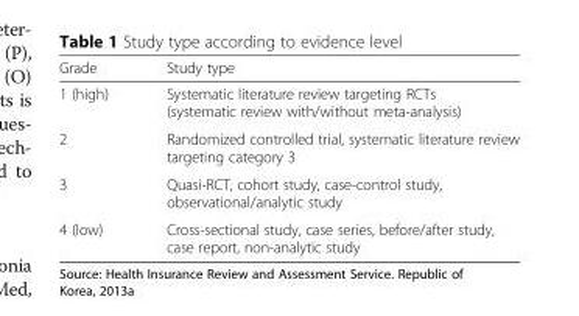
<table><thead><tr><td>Grade</td><td>Study type</td></tr></thead><tbody><tr><td>1 (high)</td><td>Systematic literature review targeting RCTs (systematic review with/without meta-analysis)</td></tr><tr><td>2</td><td>Randomized controlled trial, systematic literature review targeting category 3</td></tr><tr><td>3</td><td>Quasi-RCT, cohort study, case-control study, observational/analytic study</td></tr><tr><td>4 (low)</td><td>Cross-sectional study, case series, before/after study, case report, non-analytic study</td></tr></tbody></table>